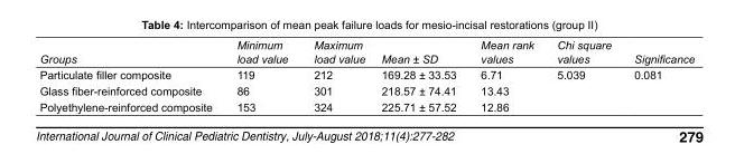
<table><tbody><tr><td>Groups</td><td>Minimum load value</td><td>Maximum load value</td><td>Mean ± SD</td><td>Mean rank values</td><td>Chi square values</td><td>Significance</td></tr><tr><td>Particulate filler composite</td><td>119</td><td>212</td><td>169.28 ± 33.53</td><td>6.71</td><td>5.039</td><td>0.081</td></tr><tr><td>Glass fiber-reinforced composite</td><td>86</td><td>301</td><td>218.57 ± 74.41</td><td>13.43</td><td></td><td></td></tr><tr><td>Polyethylene-reinforced composite</td><td>153</td><td>324</td><td>225.71 ± 57.52</td><td>12.86</td><td></td><td></td></tr></tbody></table>